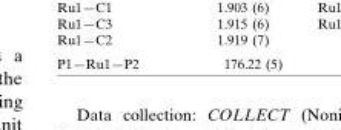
<table><tbody><tr><td>P1—Ru1—P2</td><td>176.22 (5)</td></tr></tbody></table>